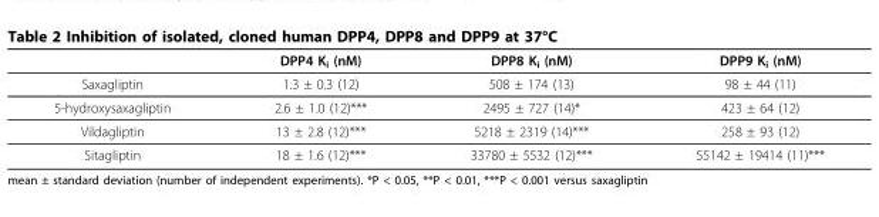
<table><thead><tr><td></td><td>DPP4 K<sub>i</sub> (nM)</td><td>DPP8 K<sub>i</sub> (nM)</td><td>DPP9 K<sub>i</sub> (nM)</td></tr></thead><tbody><tr><td>Saxagliptin</td><td>1.3 ± 0.3 (12)</td><td>508 ± 174 (13)</td><td>98 ± 44 (11)</td></tr><tr><td>5-hydroxysaxagliptin</td><td>2.6 ± 1.0 (12)***</td><td>2495 ± 727 (14)*</td><td>423 ± 64 (12)</td></tr><tr><td>Vildagliptin</td><td>13 ± 2.8 (12)***</td><td>5218 ± 2319 (14)***</td><td>258 ± 93 (12)</td></tr><tr><td>Sitagliptin</td><td>18 ± 1.6 (12)***</td><td>33780 ± 5532 (12)***</td><td>55142 ± 19414 (11)***</td></tr></tbody></table>